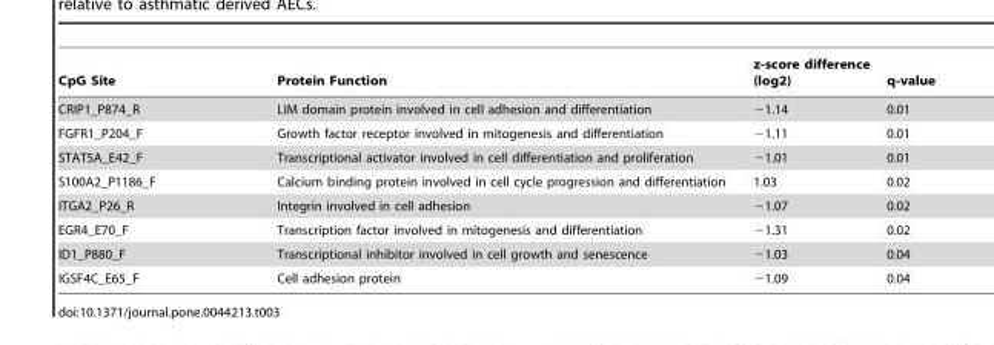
<table><thead><tr><td>CpG Site</td><td>Protein Function</td><td>z-score difference (log2)</td><td>q-value</td></tr></thead><tbody><tr><td>CRIP1_P874_R</td><td>LIM domain protein involved in cell adhesion and differentiation</td><td>−1.14</td><td>0.01</td></tr><tr><td>FGFR1_P204_F</td><td>Growth factor receptor involved in mitogenesis and differentiation</td><td>−1.11</td><td>0.01</td></tr><tr><td>STAT5A_E42_F</td><td>Transcriptional activator involved in cell differentiation and proliferation</td><td>−1.01</td><td>0.01</td></tr><tr><td>S100A2_P1186_F</td><td>Calcium binding protein involved in cell cycle progression and differentiation</td><td>1.03</td><td>0.02</td></tr><tr><td>ITGA2_P26_R</td><td>Integrin involved in cell adhesion</td><td>−1.07</td><td>0.02</td></tr><tr><td>EGR4_E70_F</td><td>Transcription factor involved in mitogenesis and differentiation</td><td>−1.31</td><td>0.02</td></tr><tr><td>ID1_P880_F</td><td>Transcriptional inhibitor involved in cell growth and senescence</td><td>−1.03</td><td>0.04</td></tr><tr><td>IGSF4C_E65_F</td><td>Cell adhesion protein</td><td>−1.09</td><td>0.04</td></tr></tbody></table>